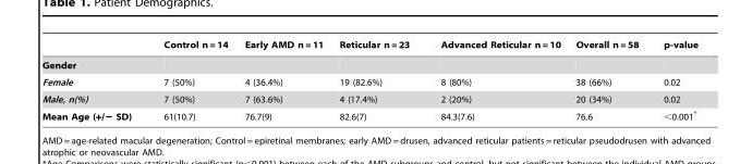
<table><thead><tr><td></td><td>Control n = 14</td><td>Early AMD n = 11</td><td>Reticular n = 23</td><td>Advanced Reticular n = 10</td><td>Overall n = 58</td><td>p-value</td></tr></thead><tbody><tr><td colspan="7">Gender</td></tr><tr><td>Female</td><td>7 (50%)</td><td>4 (36.4%)</td><td>19 (82.6%)</td><td>8 (80%)</td><td>38 (66%)</td><td>0.02</td></tr><tr><td>Male, n(%)</td><td>7 (50%)</td><td>7 (63.6%)</td><td>4 (17.4%)</td><td>2 (20%)</td><td>20 (34%)</td><td>0.02</td></tr><tr><td>Mean Age (+/− SD)</td><td>61(10.7)</td><td>76.7(9)</td><td>82.6(7)</td><td>84.3(7.6)</td><td>76.6</td><td>&lt;0.001*</td></tr></tbody></table>